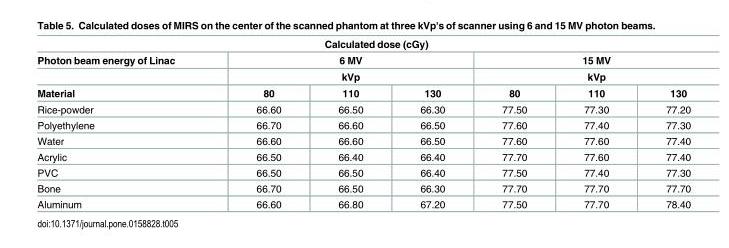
<table><thead><tr><td colspan="7">Calculated dose (cGy)</td></tr><tr><td rowspan="3">Photon beam energy of Linac Material</td><td rowspan="2" colspan="3">6 MV kVp</td><td rowspan="2" colspan="3">15 MV kVp</td></tr><tr></tr><tr><td>80</td><td>110</td><td>130</td><td>80</td><td>110</td><td>130</td></tr></thead><tbody><tr><td>Rice-powder</td><td>66.60</td><td>66.50</td><td>66.30</td><td>77.50</td><td>77.30</td><td>77.20</td></tr><tr><td>Polyethylene</td><td>66.70</td><td>66.60</td><td>66.50</td><td>77.60</td><td>77.40</td><td>77.30</td></tr><tr><td>Water</td><td>66.60</td><td>66.60</td><td>66.50</td><td>77.60</td><td>77.60</td><td>77.40</td></tr><tr><td>Acrylic</td><td>66.50</td><td>66.40</td><td>66.40</td><td>77.70</td><td>77.60</td><td>77.40</td></tr><tr><td>PVC</td><td>66.50</td><td>66.50</td><td>66.40</td><td>77.50</td><td>77.40</td><td>77.30</td></tr><tr><td>Bone</td><td>66.70</td><td>66.50</td><td>66.30</td><td>77.70</td><td>77.70</td><td>77.70</td></tr><tr><td>Aluminum</td><td>66.60</td><td>66.80</td><td>67.20</td><td>77.50</td><td>77.70</td><td>78.40</td></tr></tbody></table>